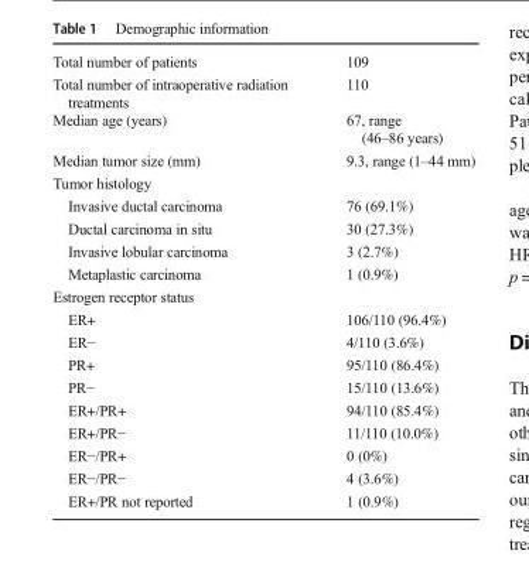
<table><tbody><tr><td>Total number of patients</td><td>109</td></tr><tr><td>Total number of intraoperative radiation treatments</td><td>110</td></tr><tr><td>Median age (years)</td><td>67, range (46–86 years)</td></tr><tr><td>Median tumor size (mm)</td><td>9.3, range (1–44 mm)</td></tr><tr><td colspan="2">Tumor histology</td></tr><tr><td>Invasive ductal carcinoma</td><td>76 (69.1%)</td></tr><tr><td>Ductal carcinoma in situ</td><td>30 (27.3%)</td></tr><tr><td>Invasive lobular carcinoma</td><td>3 (2.7%)</td></tr><tr><td>Metaplastic carcinoma</td><td>1 (0.9%)</td></tr><tr><td colspan="2">Estrogen receptor status</td></tr><tr><td>ER+</td><td>106/110 (96.4%)</td></tr><tr><td>ER−</td><td>4/110 (3.6%)</td></tr><tr><td>PR+</td><td>95/110 (86.4%)</td></tr><tr><td>PR−</td><td>15/110 (13.6%)</td></tr><tr><td>ER+/PR+</td><td>94/110 (85.4%)</td></tr><tr><td>ER+/PR−</td><td>11/110 (10.0%)</td></tr><tr><td>ER−/PR+</td><td>0 (0%)</td></tr><tr><td>ER−/PR−</td><td>4 (3.6%)</td></tr><tr><td>ER+/PR not reported</td><td>1 (0.9%)</td></tr></tbody></table>